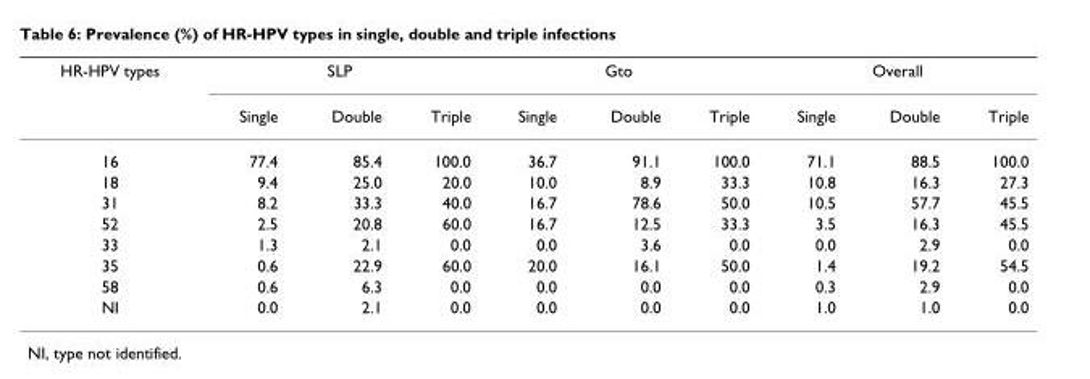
<table><thead><tr><td rowspan="2">HR-HPV types</td><td colspan="3">SLP</td><td colspan="3">Gto</td><td colspan="3">Overall</td></tr><tr><td>Single</td><td>Double</td><td>Triple</td><td>Single</td><td>Double</td><td>Triple</td><td>Single</td><td>Double</td><td>Triple</td></tr></thead><tbody><tr><td>16</td><td>77.4</td><td>85.4</td><td>100.0</td><td>36.7</td><td>91.1</td><td>100.0</td><td>71.1</td><td>88.5</td><td>100.0</td></tr><tr><td>18</td><td>9.4</td><td>25.0</td><td>20.0</td><td>10.0</td><td>8.9</td><td>33.3</td><td>10.8</td><td>16.3</td><td>27.3</td></tr><tr><td>31</td><td>8.2</td><td>33.3</td><td>40.0</td><td>16.7</td><td>78.6</td><td>50.0</td><td>10.5</td><td>57.7</td><td>45.5</td></tr><tr><td>52</td><td>2.5</td><td>20.8</td><td>60.0</td><td>16.7</td><td>12.5</td><td>33.3</td><td>3.5</td><td>16.3</td><td>45.5</td></tr><tr><td>33</td><td>1.3</td><td>2.1</td><td>0.0</td><td>0.0</td><td>3.6</td><td>0.0</td><td>0.0</td><td>2.9</td><td>0.0</td></tr><tr><td>35</td><td>0.6</td><td>22.9</td><td>60.0</td><td>20.0</td><td>16.1</td><td>50.0</td><td>1.4</td><td>19.2</td><td>54.5</td></tr><tr><td>58</td><td>0.6</td><td>6.3</td><td>0.0</td><td>0.0</td><td>0.0</td><td>0.0</td><td>0.3</td><td>2.9</td><td>0.0</td></tr><tr><td>NI</td><td>0.0</td><td>2.1</td><td>0.0</td><td>0.0</td><td>0.0</td><td>0.0</td><td>1.0</td><td>1.0</td><td>0.0</td></tr></tbody></table>